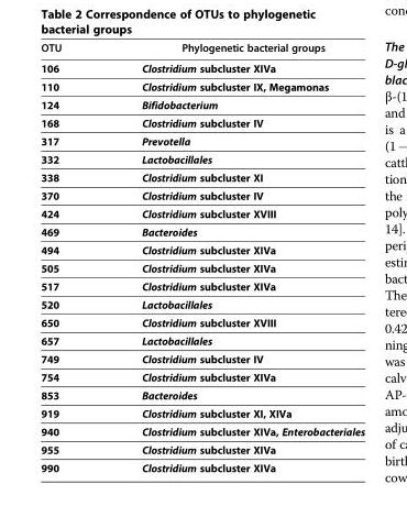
<table><thead><tr><td>OTU</td><td>Phylogenetic bacterial groups</td></tr></thead><tbody><tr><td>106</td><td>Clostridium subcluster XIVa</td></tr><tr><td>110</td><td>Clostridium subcluster IX, Megamonas</td></tr><tr><td>124</td><td>Bifidobacterium</td></tr><tr><td>168</td><td>Clostridium subcluster IV</td></tr><tr><td>317</td><td>Prevotella</td></tr><tr><td>332</td><td>Lactobacillales</td></tr><tr><td>338</td><td>Clostridium subcluster XI</td></tr><tr><td>370</td><td>Clostridium subcluster IV</td></tr><tr><td>424</td><td>Clostridium subcluster XVIII</td></tr><tr><td>469</td><td>Bacteroides</td></tr><tr><td>494</td><td>Clostridium subcluster XIVa</td></tr><tr><td>505</td><td>Clostridium subcluster XIVa</td></tr><tr><td>517</td><td>Clostridium subcluster XIVa</td></tr><tr><td>520</td><td>Lactobacillales</td></tr><tr><td>650</td><td>Clostridium subcluster XVIII</td></tr><tr><td>657</td><td>Lactobacillales</td></tr><tr><td>749</td><td>Clostridium subcluster IV</td></tr><tr><td>754</td><td>Clostridium subcluster XIVa</td></tr><tr><td>853</td><td>Bacteroides</td></tr><tr><td>919</td><td>Clostridium subcluster XI, XIVa</td></tr><tr><td>940</td><td>Clostridium subcluster XIVa, Enterobacteriales</td></tr><tr><td>955</td><td>Clostridium subcluster XIVa</td></tr><tr><td>990</td><td>Clostridium subcluster XIVa</td></tr></tbody></table>